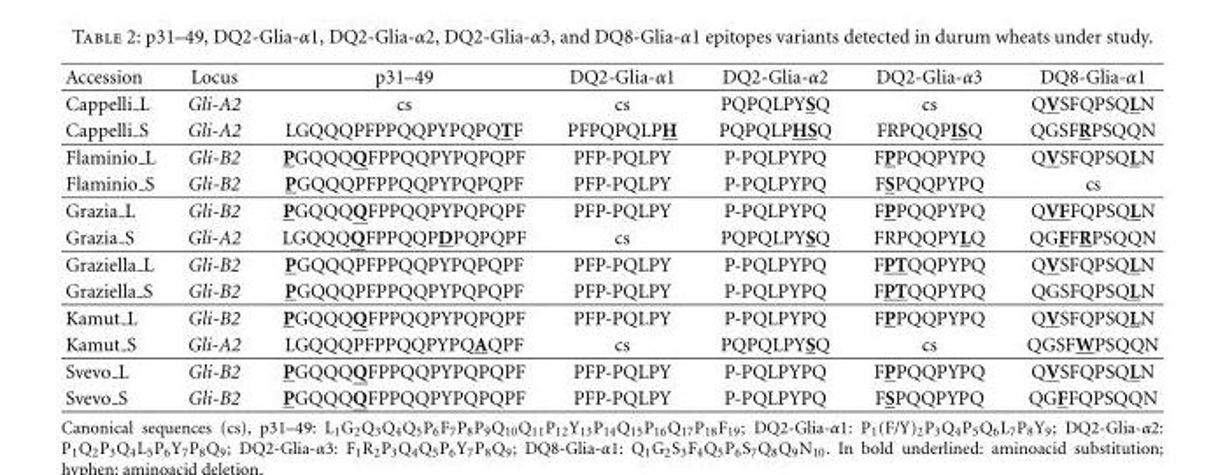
<table><thead><tr><td>Accession</td><td>Locus</td><td>p31–49</td><td>DQ2-Glia-α1</td><td>DQ2-Glia-α2</td><td>DQ2-Glia-α3</td><td>DQ8-Glia-α1</td></tr></thead><tbody><tr><td>Cappelli L</td><td>Gli-A2</td><td>cs</td><td>cs</td><td>PQPQLPYSQ</td><td>cs</td><td>QVSFQPSQLN</td></tr><tr><td>Cappelli S</td><td>Gli-A2</td><td>LGQQQPFPPQQPYPQPQTF</td><td>PFPQPQLPH</td><td>PQPQLPHSQ</td><td>FRPQQPISQ</td><td>QGSFRPSQQN</td></tr><tr><td>Flaminio L</td><td>Gli-B2</td><td>PGQQQQFPPQQPYPQPQPF</td><td>PFP-PQLPY</td><td>P-PQLPYPQ</td><td>FPPQQPYPQ</td><td>QVSFQPSQLN</td></tr><tr><td>Flaminio S</td><td>Gli-B2</td><td>PGQQQPFPPQQPYPQPQPF</td><td>PFP-PQLPY</td><td>P-PQLPYPQ</td><td>FSPQQPYPQ</td><td>cs</td></tr><tr><td>Grazia L</td><td>Gli-B2</td><td>PGQQQQFPPQQPYPQPQPF</td><td>PFP-PQLPY</td><td>P-PQLPYPQ</td><td>FPPQQPYPQ</td><td>QVFFQPSQLN</td></tr><tr><td>Grazia S</td><td>Gli-A2</td><td>LGQQQQFPPQQPDPQPQPF</td><td>cs</td><td>PQPQLPYSQ</td><td>FRPQQPYLQ</td><td>QGFFRPSQQN</td></tr><tr><td>Graziella L</td><td>Gli-B2</td><td>PGQQQPFPPQQPYPQPQPF</td><td>PFP-PQLPY</td><td>P-PQLPYPQ</td><td>FPTQQPYPQ</td><td>QVSFQPSQLN</td></tr><tr><td>Graziella S</td><td>Gli-B2</td><td>PGQQQPFPPQQPYPQPQPF</td><td>PFP-PQLPY</td><td>P-PQLPYPQ</td><td>FPTQQPYPQ</td><td>QGSFQPSQLN</td></tr><tr><td>Kamut L</td><td>Gli-B2</td><td>PGQQQQFPPQQPYPQPQPF</td><td>PFP-PQLPY</td><td>P-PQLPYPQ</td><td>FPPQQPYPQ</td><td>QVSFQPSQLN</td></tr><tr><td>Kamut S</td><td>Gli-A2</td><td>LGQQQPFPPQQPYPQAQPF</td><td>cs</td><td>PQPQLPYSQ</td><td>cs</td><td>QGSFWPSQQN</td></tr><tr><td>Svevo L</td><td>Gli-B2</td><td>PGQQQQFPPQQPYPQPQPF</td><td>PFP-PQLPY</td><td>P-PQLPYPQ</td><td>FPPQQPYPQ</td><td>QVSFQPSQLN</td></tr><tr><td>Svevo S</td><td>Gli-B2</td><td>PGQQQQFPPQQPYPQPQPF</td><td>PFP-PQLPY</td><td>P-PQLPYPQ</td><td>FSPQQPYPQ</td><td>QGFFQPSQQN</td></tr></tbody></table>